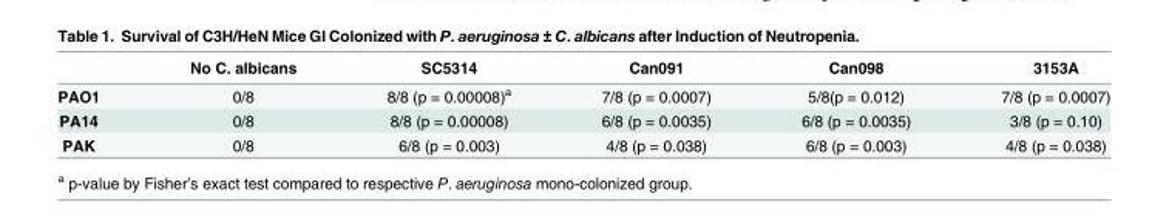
<table><thead><tr><td></td><td>No C. albicans</td><td>SC5314</td><td>Can091</td><td>Can098</td><td>3153A</td></tr></thead><tbody><tr><td>PAO1</td><td>0/8</td><td>8/8 (p = 0.00008)<sup>a</sup></td><td>7/8 (p = 0.0007)</td><td>5/8(p = 0.012)</td><td>7/8 (p = 0.0007)</td></tr><tr><td>PA14</td><td>0/8</td><td>8/8 (p = 0.00008)</td><td>6/8 (p = 0.0035)</td><td>6/8 (p = 0.0035)</td><td>3/8 (p = 0.10)</td></tr><tr><td>PAK</td><td>0/8</td><td>6/8 (p = 0.003)</td><td>4/8 (p = 0.038)</td><td>6/8 (p = 0.003)</td><td>4/8 (p = 0.038)</td></tr></tbody></table>